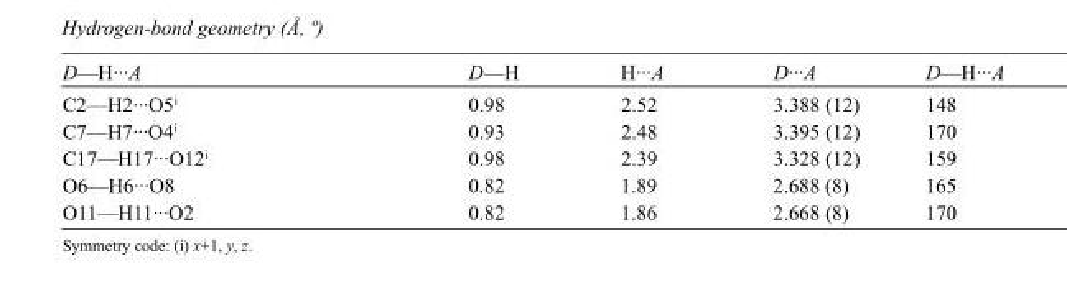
<table><tbody><tr><td>D—H···A</td><td>D—H</td><td>H···A</td><td>D···A</td><td>D—H···A</td></tr><tr><td>C2—H2···O5<sup>i</sup></td><td>0.98</td><td>2.52</td><td>3.388 (12)</td><td>148</td></tr><tr><td>C7—H7···O4<sup>i</sup></td><td>0.93</td><td>2.48</td><td>3.395 (12)</td><td>170</td></tr><tr><td>C17—H17···O12<sup>i</sup></td><td>0.98</td><td>2.39</td><td>3.328 (12)</td><td>159</td></tr><tr><td>O6—H6···O8</td><td>0.82</td><td>1.89</td><td>2.688 (8)</td><td>165</td></tr><tr><td>O11—H11···O2</td><td>0.82</td><td>1.86</td><td>2.668 (8)</td><td>170</td></tr></tbody></table>